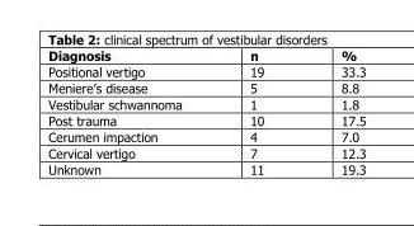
<table><thead><tr><td>Diagnosis</td><td>n</td><td>%</td></tr></thead><tbody><tr><td>Positional vertigo</td><td>19</td><td>33.3</td></tr><tr><td>Meniere’s disease</td><td>5</td><td>8.8</td></tr><tr><td>Vestibular schwannoma</td><td>1</td><td>1.8</td></tr><tr><td>Post trauma</td><td>10</td><td>17.5</td></tr><tr><td>Cerumen impaction</td><td>4</td><td>7.0</td></tr><tr><td>Cervical vertigo</td><td>7</td><td>12.3</td></tr><tr><td>Unknown</td><td>11</td><td>19.3</td></tr></tbody></table>